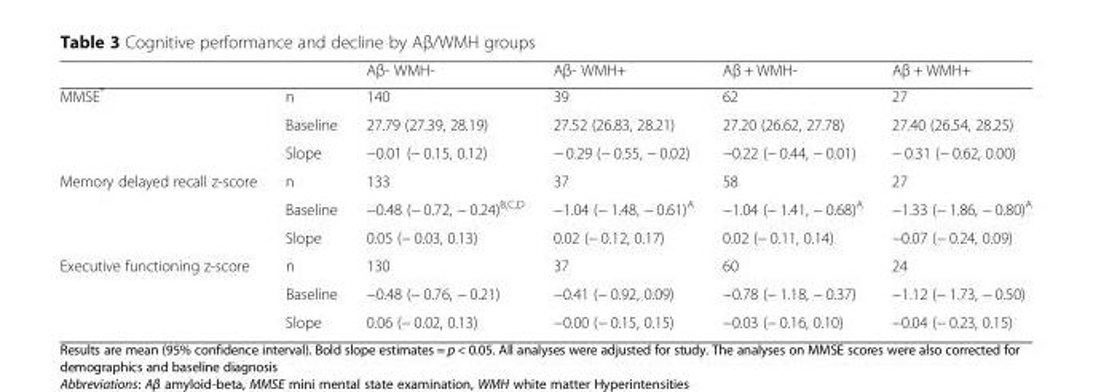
<table><thead><tr><td></td><td></td><td>Aβ- WMH-</td><td>Aβ- WMH+</td><td>Aβ + WMH-</td><td>Aβ + WMH+</td></tr></thead><tbody><tr><td rowspan="3">MMSE*</td><td>n</td><td>140</td><td>39</td><td>62</td><td>27</td></tr><tr><td>Baseline</td><td>27.79 (27.39, 28.19)</td><td>27.52 (26.83, 28.21)</td><td>27.20 (26.62, 27.78)</td><td>27.40 (26.54, 28.25)</td></tr><tr><td>Slope</td><td>−0.01 (− 0.15, 0.12)</td><td>− 0.29 (− 0.55, − 0.02)</td><td>−0.22 (− 0.44, − 0.01)</td><td>− 0.31 (− 0.62, 0.00)</td></tr><tr><td rowspan="3">Memory delayed recall z-score</td><td>n</td><td>133</td><td>37</td><td>58</td><td>27</td></tr><tr><td>Baseline</td><td>−0.48 (− 0.72, − 0.24)<sup>B,C,D</sup></td><td>−1.04 (− 1.48, − 0.61)<sup>A</sup></td><td>−1.04 (− 1.41, − 0.68)<sup>A</sup></td><td>−1.33 (− 1.86, − 0.80)<sup>A</sup></td></tr><tr><td>Slope</td><td>0.05 (− 0.03, 0.13)</td><td>0.02 (− 0.12, 0.17)</td><td>0.02 (− 0.11, 0.14)</td><td>−0.07 (− 0.24, 0.09)</td></tr><tr><td rowspan="3">Executive functioning z-score</td><td>n</td><td>130</td><td>37</td><td>60</td><td>24</td></tr><tr><td>Baseline</td><td>−0.48 (− 0.76, − 0.21)</td><td>−0.41 (− 0.92, 0.09)</td><td>−0.78 (− 1.18, − 0.37)</td><td>−1.12 (− 1.73, − 0.50)</td></tr><tr><td>Slope</td><td>0.06 (− 0.02, 0.13)</td><td>−0.00 (− 0.15, 0.15)</td><td>−0.03 (− 0.16, 0.10)</td><td>−0.04 (− 0.23, 0.15)</td></tr></tbody></table>